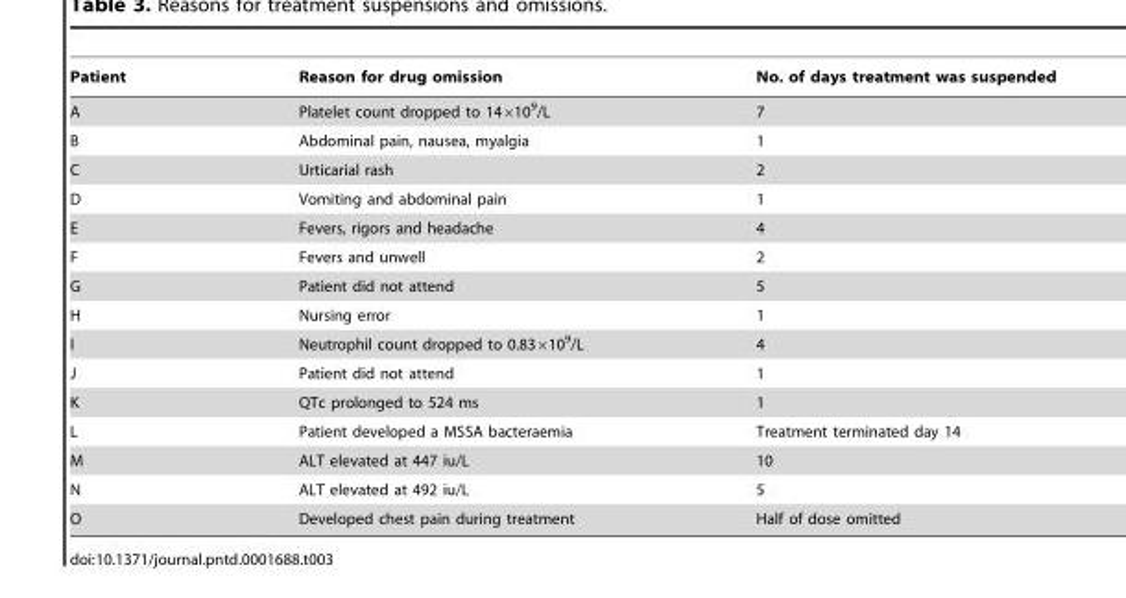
<table><thead><tr><td>Patient</td><td>Reason for drug omission</td><td>No. of days treatment was suspended</td></tr></thead><tbody><tr><td>A</td><td>Platelet count dropped to 14×10<sup>9</sup>/L</td><td>7</td></tr><tr><td>B</td><td>Abdominal pain, nausea, myalgia</td><td>1</td></tr><tr><td>C</td><td>Urticarial rash</td><td>2</td></tr><tr><td>D</td><td>Vomiting and abdominal pain</td><td>1</td></tr><tr><td>E</td><td>Fevers, rigors and headache</td><td>4</td></tr><tr><td>F</td><td>Fevers and unwell</td><td>2</td></tr><tr><td>G</td><td>Patient did not attend</td><td>5</td></tr><tr><td>H</td><td>Nursing error</td><td>1</td></tr><tr><td>I</td><td>Neutrophil count dropped to 0.83×10<sup>9</sup>/L</td><td>4</td></tr><tr><td>J</td><td>Patient did not attend</td><td>1</td></tr><tr><td>K</td><td>QTc prolonged to 524 ms</td><td>1</td></tr><tr><td>L</td><td>Patient developed a MSSA bacteraemia</td><td>Treatment terminated day 14</td></tr><tr><td>M</td><td>ALT elevated at 447 iu/L</td><td>10</td></tr><tr><td>N</td><td>ALT elevated at 492 iu/L</td><td>5</td></tr><tr><td>O</td><td>Developed chest pain during treatment</td><td>Half of dose omitted</td></tr></tbody></table>